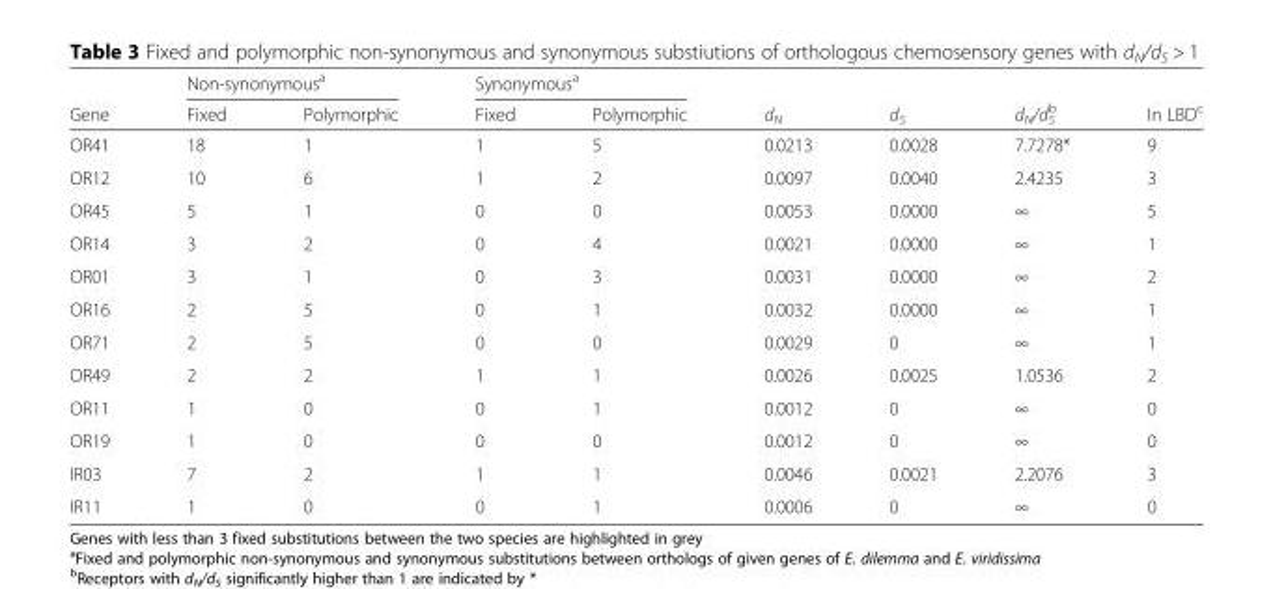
<table><thead><tr><td rowspan="2">Gene</td><td colspan="2">Non-synonymous<sup>a</sup></td><td colspan="2">Synonymous<sup>a</sup></td><td rowspan="2">d<sub>N</sub></td><td rowspan="2">d<sub>S</sub></td><td rowspan="2">d<sub>N</sub>/d<sub>S</sub> <sup>b</sup></td><td rowspan="2">In LBD<sup>c</sup></td></tr><tr><td>Fixed</td><td>Polymorphic</td><td>Fixed</td><td>Polymorphic</td></tr></thead><tbody><tr><td>OR41</td><td>18</td><td>1</td><td>1</td><td>5</td><td>0.0213</td><td>0.0028</td><td>7.7278*</td><td>9</td></tr><tr><td>OR12</td><td>10</td><td>6</td><td>1</td><td>2</td><td>0.0097</td><td>0.0040</td><td>2.4235</td><td>3</td></tr><tr><td>OR45</td><td>5</td><td>1</td><td>0</td><td>0</td><td>0.0053</td><td>0.0000</td><td>∞</td><td>5</td></tr><tr><td>OR14</td><td>3</td><td>2</td><td>0</td><td>4</td><td>0.0021</td><td>0.0000</td><td>∞</td><td>1</td></tr><tr><td>OR01</td><td>3</td><td>1</td><td>0</td><td>3</td><td>0.0031</td><td>0.0000</td><td>∞</td><td>2</td></tr><tr><td>OR16</td><td>2</td><td>5</td><td>0</td><td>1</td><td>0.0032</td><td>0.0000</td><td>∞</td><td>1</td></tr><tr><td>OR71</td><td>2</td><td>5</td><td>0</td><td>0</td><td>0.0029</td><td>0</td><td>∞</td><td>1</td></tr><tr><td>OR49</td><td>2</td><td>2</td><td>1</td><td>1</td><td>0.0026</td><td>0.0025</td><td>1.0536</td><td>2</td></tr><tr><td>OR11</td><td>1</td><td>0</td><td>0</td><td>1</td><td>0.0012</td><td>0</td><td>∞</td><td>0</td></tr><tr><td>OR19</td><td>1</td><td>0</td><td>0</td><td>0</td><td>0.0012</td><td>0</td><td>∞</td><td>0</td></tr><tr><td>IR03</td><td>7</td><td>2</td><td>1</td><td>1</td><td>0.0046</td><td>0.0021</td><td>2.2076</td><td>3</td></tr><tr><td>IR11</td><td>1</td><td>0</td><td>0</td><td>1</td><td>0.0006</td><td>0</td><td>∞</td><td>0</td></tr></tbody></table>